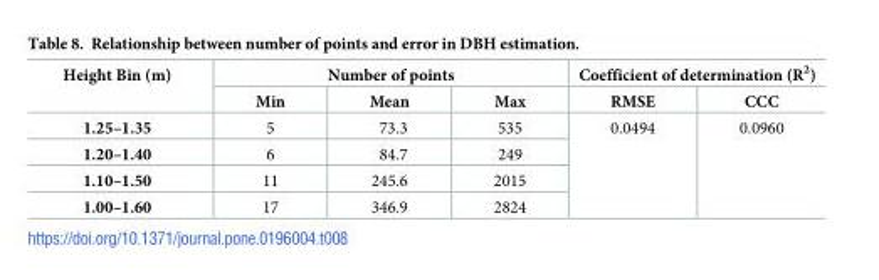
<table><thead><tr><td rowspan="2">Height Bin (m)</td><td colspan="3">Number of points</td><td colspan="2">Coefficient of determination (R<sup>2</sup>)</td></tr><tr><td>Min</td><td>Mean</td><td>Max</td><td>RMSE</td><td>CCC</td></tr></thead><tbody><tr><td>1.25–1.35</td><td>5</td><td>73.3</td><td>535</td><td rowspan="4">0.0494</td><td rowspan="4">0.0960</td></tr><tr><td>1.20–1.40</td><td>6</td><td>84.7</td><td>249</td></tr><tr><td>1.10–1.50</td><td>11</td><td>245.6</td><td>2015</td></tr><tr><td>1.00–1.60</td><td>17</td><td>346.9</td><td>2824</td></tr></tbody></table>